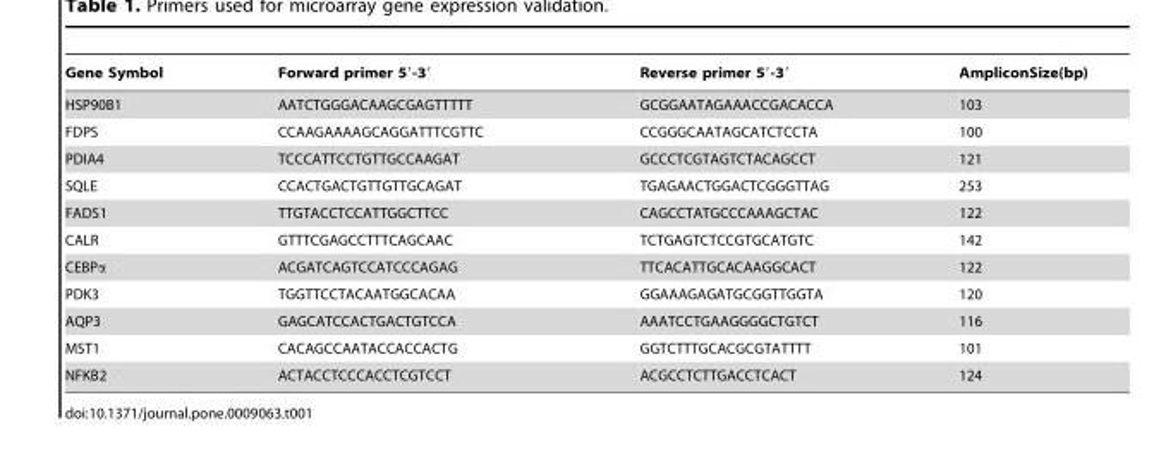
<table><thead><tr><td>Gene Symbol</td><td>Forward primer 5′-3′</td><td>Reverse primer 5′-3′</td><td>AmpliconSize(bp)</td></tr></thead><tbody><tr><td>HSP90B1</td><td>AATCTGGGACAAGCGAGTTTTT</td><td>GCGGAATAGAAACCGACACCA</td><td>103</td></tr><tr><td>FDPS</td><td>CCAAGAAAAGCAGGATTTCGTTC</td><td>CCGGGCAATAGCATCTCCTA</td><td>100</td></tr><tr><td>PDIA4</td><td>TCCCATTCCTGTTGCCAAGAT</td><td>GCCCTCGTAGTCTACAGCCT</td><td>121</td></tr><tr><td>SQLE</td><td>CCACTGACTGTTGTTGCAGAT</td><td>TGAGAACTGGACTCGGGTTAG</td><td>253</td></tr><tr><td>FADS1</td><td>TTGTACCTCCATTGGCTTCC</td><td>CAGCCTATGCCCAAAGCTAC</td><td>122</td></tr><tr><td>CALR</td><td>GTTTCGAGCCTTTCAGCAAC</td><td>TCTGAGTCTCCGTGCATGTC</td><td>142</td></tr><tr><td>CEBPα</td><td>ACGATCAGTCCATCCCAGAG</td><td>TTCACATTGCACAAGGCACT</td><td>122</td></tr><tr><td>PDK3</td><td>TGGTTCCTACAATGGCACAA</td><td>GGAAAGAGATGCGGTTGGTA</td><td>120</td></tr><tr><td>AQP3</td><td>GAGCATCCACTGACTGTCCA</td><td>AAATCCTGAAGGGGCTGTCT</td><td>116</td></tr><tr><td>MST1</td><td>CACAGCCAATACCACCACTG</td><td>GGTCTTTGCACGCGTATTTT</td><td>101</td></tr><tr><td>NFKB2</td><td>ACTACCTCCCACCTCGTCCT</td><td>ACGCCTCTTGACCTCACT</td><td>124</td></tr></tbody></table>